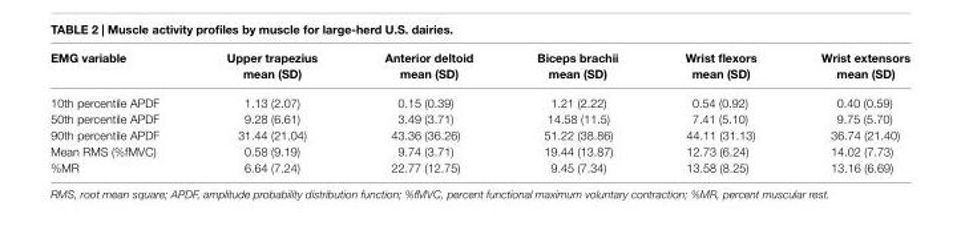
<table><thead><tr><td>eMg variable</td><td>Upper trapezius mean (sD)</td><td>anterior deltoid mean (sD)</td><td>Biceps brachii mean (sD)</td><td>Wrist flexors mean (sD)</td><td>Wrist extensors mean (sD)</td></tr></thead><tbody><tr><td>10th percentile APDF</td><td>1.13 (2.07)</td><td>0.15 (0.39)</td><td>1.21 (2.22)</td><td>0.54 (0.92)</td><td>0.40 (0.59)</td></tr><tr><td>50th percentile APDF</td><td>9.28 (6.61)</td><td>3.49 (3.71)</td><td>14.58 (11.5)</td><td>7.41 (5.10)</td><td>9.75 (5.70)</td></tr><tr><td>90th percentile APDF</td><td>31.44 (21.04)</td><td>43.36 (36.26)</td><td>51.22 (38.86)</td><td>44.11 (31.13)</td><td>36.74 (21.40)</td></tr><tr><td>Mean RMS (%fMVC)</td><td>0.58 (9.19)</td><td>9.74 (3.71)</td><td>19.44 (13.87)</td><td>12.73 (6.24)</td><td>14.02 (7.73)</td></tr><tr><td>%MR</td><td>6.64 (7.24)</td><td>22.77 (12.75)</td><td>9.45 (7.34)</td><td>13.58 (8.25)</td><td>13.16 (6.69)</td></tr></tbody></table>